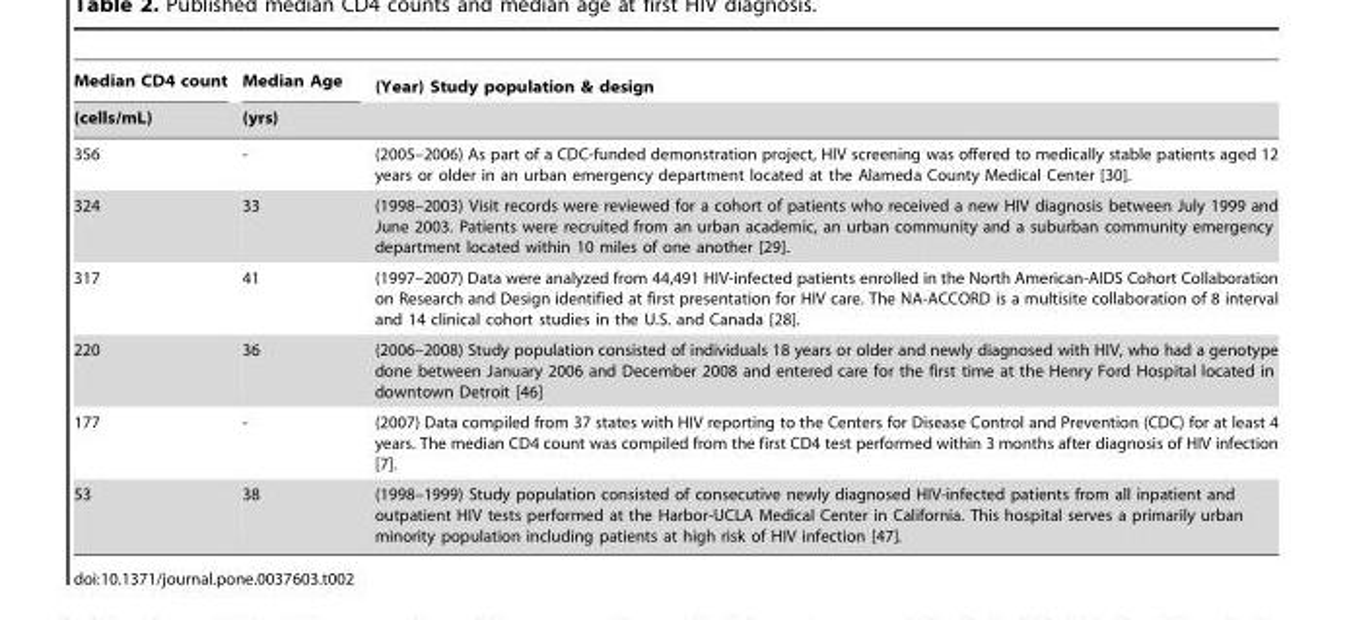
<table><thead><tr><td rowspan="2">Median CD4 count (cells/mL)</td><td rowspan="2">Median Age (yrs)</td><td rowspan="2">(Year) Study population &amp; design</td></tr><tr></tr></thead><tbody><tr><td>356</td><td>-</td><td>(2005–2006) As part of a CDC-funded demonstration project, HIV screening was offered to medically stable patients aged 12 years or older in an urban emergency department located at the Alameda County Medical Center [30].</td></tr><tr><td>324</td><td>33</td><td>(1998–2003) Visit records were reviewed for a cohort of patients who received a new HIV diagnosis between July 1999 and June 2003. Patients were recruited from an urban academic, an urban community and a suburban community emergency department located within 10 miles of one another [29].</td></tr><tr><td>317</td><td>41</td><td>(1997–2007) Data were analyzed from 44,491 HIV-infected patients enrolled in the North American-AIDS Cohort Collaboration on Research and Design identified at first presentation for HIV care. The NA-ACCORD is a multisite collaboration of 8 interval and 14 clinical cohort studies in the U.S. and Canada [28].</td></tr><tr><td>220</td><td>36</td><td>(2006–2008) Study population consisted of individuals 18 years or older and newly diagnosed with HIV, who had a genotype done between January 2006 and December 2008 and entered care for the first time at the Henry Ford Hospital located in downtown Detroit [46]</td></tr><tr><td>177</td><td>-</td><td>(2007) Data compiled from 37 states with HIV reporting to the Centers for Disease Control and Prevention (CDC) for at least 4 years. The median CD4 count was compiled from the first CD4 test performed within 3 months after diagnosis of HIV infection [7].</td></tr><tr><td>53</td><td>38</td><td>(1998–1999) Study population consisted of consecutive newly diagnosed HIV-infected patients from all inpatient and outpatient HIV tests performed at the Harbor-UCLA Medical Center in California. This hospital serves a primarily urban minority population including patients at high risk of HIV infection [47].</td></tr></tbody></table>